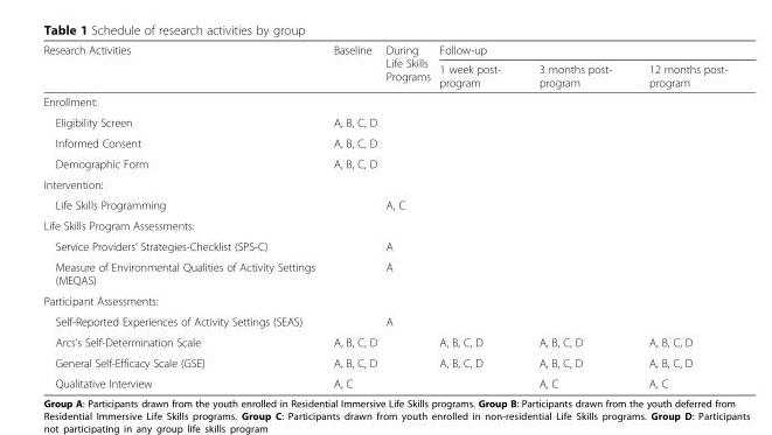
<table><thead><tr><td rowspan="2">Research Activities</td><td rowspan="2">Baseline</td><td rowspan="2">During Life Skills Programs</td><td colspan="3">Follow-up</td></tr><tr><td>1 week post- program</td><td>3 months post- program</td><td>12 months post- program</td></tr></thead><tbody><tr><td colspan="6">Enrollment:</td></tr><tr><td>Eligibility Screen</td><td>A, B, C, D</td><td></td><td></td><td></td><td></td></tr><tr><td>Informed Consent</td><td>A, B, C, D</td><td></td><td></td><td></td><td></td></tr><tr><td>Demographic Form</td><td>A, B, C, D</td><td></td><td></td><td></td><td></td></tr><tr><td colspan="6">Intervention:</td></tr><tr><td>Life Skills Programming</td><td></td><td>A, C</td><td></td><td></td><td></td></tr><tr><td colspan="6">Life Skills Program Assessments:</td></tr><tr><td>Service Providers’ Strategies-Checklist (SPS-C)</td><td></td><td>A</td><td></td><td></td><td></td></tr><tr><td>Measure of Environmental Qualities of Activity Settings (MEQAS)</td><td></td><td>A</td><td></td><td></td><td></td></tr><tr><td colspan="6">Participant Assessments:</td></tr><tr><td>Self-Reported Experiences of Activity Settings (SEAS)</td><td></td><td>A</td><td></td><td></td><td></td></tr><tr><td>Arcs’s Self-Determination Scale</td><td>A, B, C, D</td><td></td><td>A, B, C, D</td><td>A, B, C, D</td><td>A, B, C, D</td></tr><tr><td>General Self-Efficacy Scale (GSE)</td><td>A, B, C, D</td><td></td><td>A, B, C, D</td><td>A, B, C, D</td><td>A, B, C, D</td></tr><tr><td>Qualitative Interview</td><td>A, C</td><td></td><td></td><td>A, C</td><td>A, C</td></tr></tbody></table>